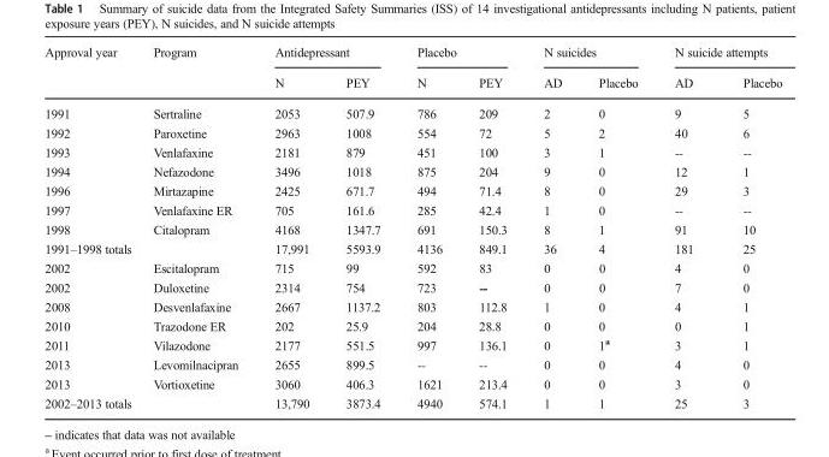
<table><thead><tr><td rowspan="2">Approval year</td><td rowspan="2">Program</td><td colspan="2">Antidepressant</td><td colspan="2">Placebo</td><td colspan="2">N suicides</td><td colspan="2">N suicide attempts</td></tr><tr><td>N</td><td>PEY</td><td>N</td><td>PEY</td><td>AD</td><td>Placebo</td><td>AD</td><td>Placebo</td></tr></thead><tbody><tr><td>1991</td><td>Sertraline</td><td>2053</td><td>507.9</td><td>786</td><td>209</td><td>2</td><td>0</td><td>9</td><td>5</td></tr><tr><td>1992</td><td>Paroxetine</td><td>2963</td><td>1008</td><td>554</td><td>72</td><td>5</td><td>2</td><td>40</td><td>6</td></tr><tr><td>1993</td><td>Venlafaxine</td><td>2181</td><td>879</td><td>451</td><td>100</td><td>3</td><td>1</td><td>--</td><td>--</td></tr><tr><td>1994</td><td>Nefazodone</td><td>3496</td><td>1018</td><td>875</td><td>204</td><td>9</td><td>0</td><td>12</td><td>1</td></tr><tr><td>1996</td><td>Mirtazapine</td><td>2425</td><td>671.7</td><td>494</td><td>71.4</td><td>8</td><td>0</td><td>29</td><td>3</td></tr><tr><td>1997</td><td>Venlafaxine ER</td><td>705</td><td>161.6</td><td>285</td><td>42.4</td><td>1</td><td>0</td><td>--</td><td>--</td></tr><tr><td>1998</td><td>Citalopram</td><td>4168</td><td>1347.7</td><td>691</td><td>150.3</td><td>8</td><td>1</td><td>91</td><td>10</td></tr><tr><td colspan="2">1991–1998 totals</td><td>17,991</td><td>5593.9</td><td>4136</td><td>849.1</td><td>36</td><td>4</td><td>181</td><td>25</td></tr><tr><td>2002</td><td>Escitalopram</td><td>715</td><td>99</td><td>592</td><td>83</td><td>0</td><td>0</td><td>4</td><td>0</td></tr><tr><td>2002</td><td>Duloxetine</td><td>2314</td><td>754</td><td>723</td><td>--</td><td>0</td><td>0</td><td>7</td><td>0</td></tr><tr><td>2008</td><td>Desvenlafaxine</td><td>2667</td><td>1137.2</td><td>803</td><td>112.8</td><td>1</td><td>0</td><td>4</td><td>1</td></tr><tr><td>2010</td><td>Trazodone ER</td><td>202</td><td>25.9</td><td>204</td><td>28.8</td><td>0</td><td>0</td><td>0</td><td>1</td></tr><tr><td>2011</td><td>Vilazodone</td><td>2177</td><td>551.5</td><td>997</td><td>136.1</td><td>0</td><td>1<sup>a</sup></td><td>3</td><td>1</td></tr><tr><td>2013</td><td>Levomilnacipran</td><td>2655</td><td>899.5</td><td>--</td><td>--</td><td>0</td><td>0</td><td>4</td><td>0</td></tr><tr><td>2013</td><td>Vortioxetine</td><td>3060</td><td>406.3</td><td>1621</td><td>213.4</td><td>0</td><td>0</td><td>3</td><td>0</td></tr><tr><td colspan="2">2002–2013 totals</td><td>13,790</td><td>3873.4</td><td>4940</td><td>574.1</td><td>1</td><td>1</td><td>25</td><td>3</td></tr></tbody></table>